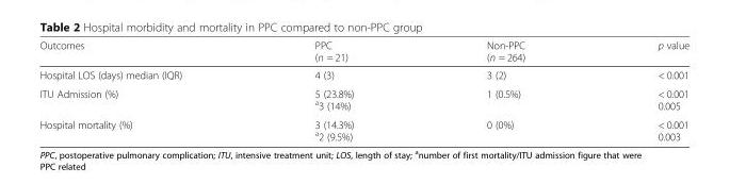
<table><thead><tr><td>Outcomes</td><td>PPC (n = 21)</td><td>Non-PPC (n = 264)</td><td>p value</td></tr></thead><tbody><tr><td>Hospital LOS (days) median (IQR)</td><td>4 (3)</td><td>3 (2)</td><td>&lt; 0.001</td></tr><tr><td>ITU Admission (%)</td><td>5 (23.8%) <sup>a</sup>3 (14%)</td><td>1 (0.5%)</td><td>&lt; 0.001 0.005</td></tr><tr><td>Hospital mortality (%)</td><td>3 (14.3%) <sup>a</sup>2 (9.5%)</td><td>0 (0%)</td><td>&lt; 0.001 0.003</td></tr></tbody></table>